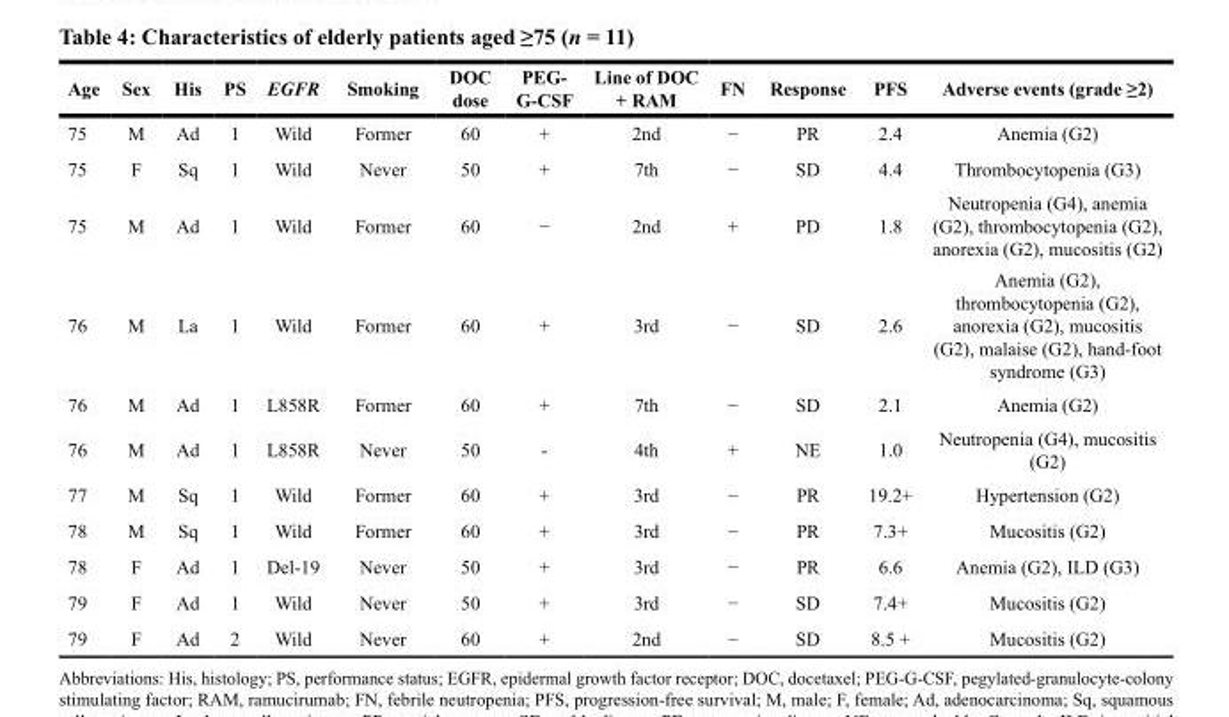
<table><thead><tr><td>Age</td><td>Sex</td><td>His</td><td>PS</td><td>EGFR</td><td>Smoking</td><td>DOC dose</td><td>PEG- G-CSF</td><td>Line of DOC + RAM</td><td>FN</td><td>Response</td><td>PFS</td><td>Adverse events (grade ≥2)</td></tr></thead><tbody><tr><td>75</td><td>M</td><td>Ad</td><td>1</td><td>Wild</td><td>Former</td><td>60</td><td>+</td><td>2nd</td><td>−</td><td>PR</td><td>2.4</td><td>Anemia (G2)</td></tr><tr><td>75</td><td>F</td><td>Sq</td><td>1</td><td>Wild</td><td>Never</td><td>50</td><td>+</td><td>7th</td><td>−</td><td>SD</td><td>4.4</td><td>Thrombocytopenia (G3)</td></tr><tr><td>75</td><td>M</td><td>Ad</td><td>1</td><td>Wild</td><td>Former</td><td>60</td><td>−</td><td>2nd</td><td>+</td><td>PD</td><td>1.8</td><td>Neutropenia (G4), anemia (G2), thrombocytopenia (G2), anorexia (G2), mucositis (G2)</td></tr><tr><td>76</td><td>M</td><td>La</td><td>1</td><td>Wild</td><td>Former</td><td>60</td><td>+</td><td>3rd</td><td>−</td><td>SD</td><td>2.6</td><td>Anemia (G2), thrombocytopenia (G2), anorexia (G2), mucositis (G2), malaise (G2), hand-foot syndrome (G3)</td></tr><tr><td>76</td><td>M</td><td>Ad</td><td>1</td><td>L858R</td><td>Former</td><td>60</td><td>+</td><td>7th</td><td>−</td><td>SD</td><td>2.1</td><td>Anemia (G2)</td></tr><tr><td>76</td><td>M</td><td>Ad</td><td>1</td><td>L858R</td><td>Never</td><td>50</td><td>-</td><td>4th</td><td>+</td><td>NE</td><td>1.0</td><td>Neutropenia (G4), mucositis (G2)</td></tr><tr><td>77</td><td>M</td><td>Sq</td><td>1</td><td>Wild</td><td>Former</td><td>60</td><td>+</td><td>3rd</td><td>−</td><td>PR</td><td>19.2+</td><td>Hypertension (G2)</td></tr><tr><td>78</td><td>M</td><td>Sq</td><td>1</td><td>Wild</td><td>Former</td><td>60</td><td>+</td><td>3rd</td><td>−</td><td>PR</td><td>7.3+</td><td>Mucositis (G2)</td></tr><tr><td>78</td><td>F</td><td>Ad</td><td>1</td><td>Del-19</td><td>Never</td><td>50</td><td>+</td><td>3rd</td><td>−</td><td>PR</td><td>6.6</td><td>Anemia (G2), ILD (G3)</td></tr><tr><td>79</td><td>F</td><td>Ad</td><td>1</td><td>Wild</td><td>Never</td><td>50</td><td>+</td><td>3rd</td><td>−</td><td>SD</td><td>7.4+</td><td>Mucositis (G2)</td></tr><tr><td>79</td><td>F</td><td>Ad</td><td>2</td><td>Wild</td><td>Never</td><td>60</td><td>+</td><td>2nd</td><td>−</td><td>SD</td><td>8.5 +</td><td>Mucositis (G2)</td></tr></tbody></table>